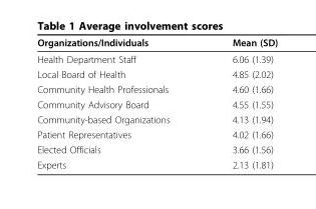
<table><thead><tr><td>Organizations/Individuals</td><td>Mean (SD)</td></tr></thead><tbody><tr><td>Health Department Staff</td><td>6.06 (1.39)</td></tr><tr><td>Local Board of Health</td><td>4.85 (2.02)</td></tr><tr><td>Community Health Professionals</td><td>4.60 (1.66)</td></tr><tr><td>Community Advisory Board</td><td>4.55 (1.55)</td></tr><tr><td>Community-based Organizations</td><td>4.13 (1.94)</td></tr><tr><td>Patient Representatives</td><td>4.02 (1.66)</td></tr><tr><td>Elected Officials</td><td>3.66 (1.56)</td></tr><tr><td>Experts</td><td>2.13 (1.81)</td></tr></tbody></table>